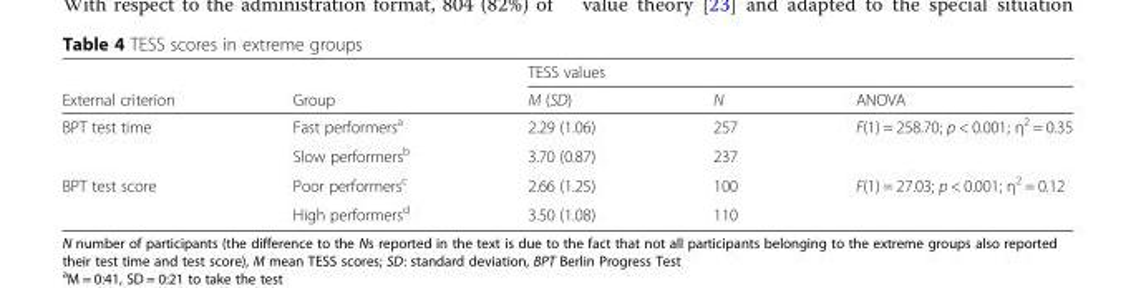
<table><thead><tr><td rowspan="2">External criterion</td><td rowspan="2">Group</td><td colspan="3">TESS values</td></tr><tr><td>M (SD)</td><td>N</td><td>ANOVA</td></tr></thead><tbody><tr><td rowspan="2">BPT test time</td><td>Fast performers<sup>a</sup></td><td>2.29 (1.06)</td><td>257</td><td>F(1) = 258.70; p &lt; 0.001; η<sup>2</sup> = 0.35</td></tr><tr><td>Slow performers<sup>b</sup></td><td>3.70 (0.87)</td><td>237</td><td></td></tr><tr><td rowspan="2">BPT test score</td><td>Poor performers<sup>c</sup></td><td>2.66 (1.25)</td><td>100</td><td>F(1) = 27.03; p &lt; 0.001; η<sup>2</sup> = 0.12</td></tr><tr><td>High performers<sup>d</sup></td><td>3.50 (1.08)</td><td>110</td><td></td></tr></tbody></table>